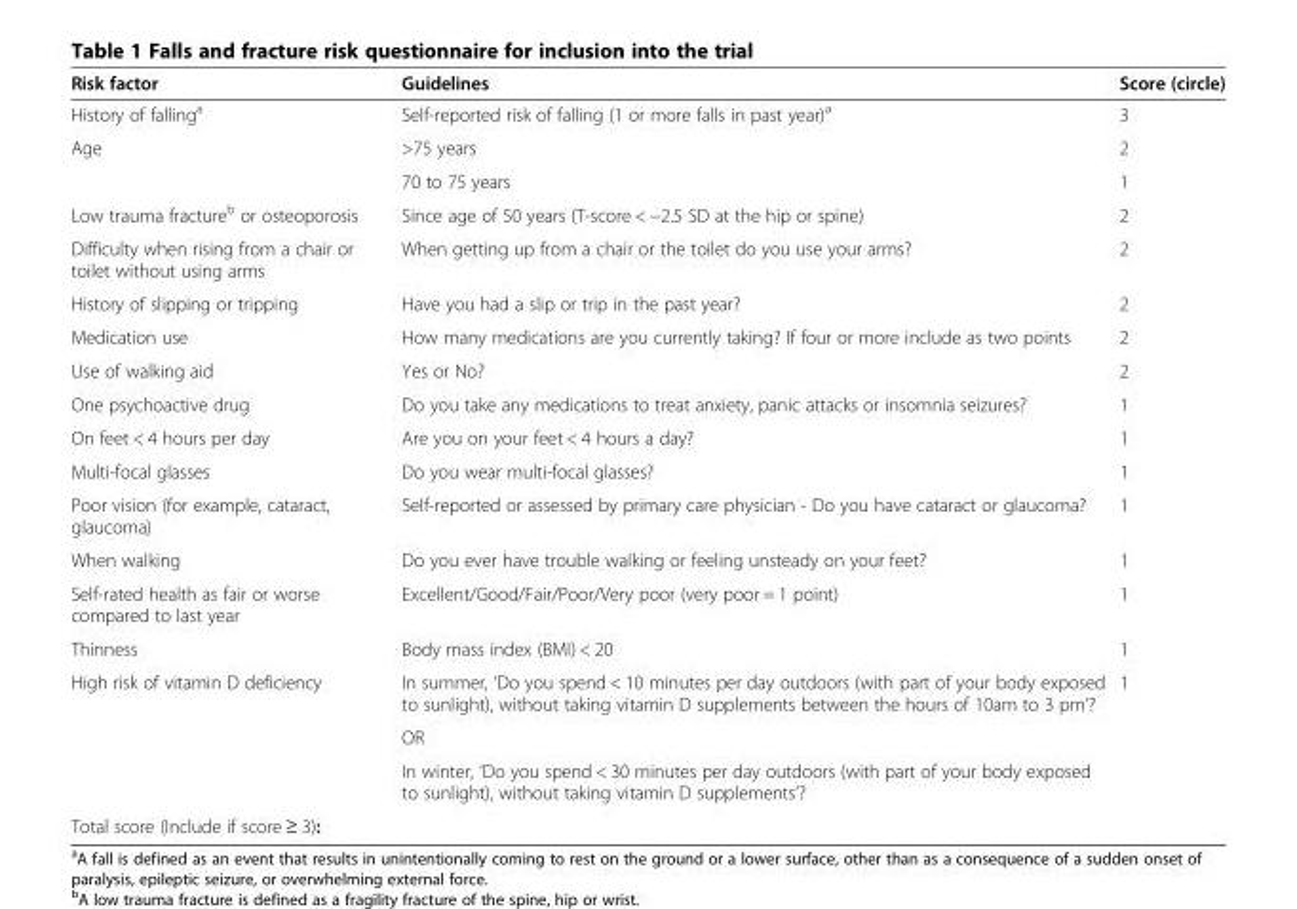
<table><thead><tr><td>Risk factor</td><td>Guidelines</td><td>Score (circle)</td></tr></thead><tbody><tr><td>History of falling<sup>a</sup></td><td>Self-reported risk of falling (1 or more falls in past year)<sup>a</sup></td><td>3</td></tr><tr><td rowspan="2">Age</td><td>&gt;75 years</td><td>2</td></tr><tr><td>70 to 75 years</td><td>1</td></tr><tr><td>Low trauma fracture<sup>b</sup> or osteoporosis</td><td>Since age of 50 years (T-score &lt; −2.5 SD at the hip or spine)</td><td>2</td></tr><tr><td>Difficulty when rising from a chair or toilet without using arms</td><td>When getting up from a chair or the toilet do you use your arms?</td><td>2</td></tr><tr><td>History of slipping or tripping</td><td>Have you had a slip or trip in the past year?</td><td>2</td></tr><tr><td>Medication use</td><td>How many medications are you currently taking? If four or more include as two points</td><td>2</td></tr><tr><td>Use of walking aid</td><td>Yes or No?</td><td>2</td></tr><tr><td>One psychoactive drug</td><td>Do you take any medications to treat anxiety, panic attacks or insomnia seizures?</td><td>1</td></tr><tr><td>On feet &lt; 4 hours per day</td><td>Are you on your feet &lt; 4 hours a day?</td><td>1</td></tr><tr><td>Multi-focal glasses</td><td>Do you wear multi-focal glasses?</td><td>1</td></tr><tr><td>Poor vision (for example, cataract, glaucoma)</td><td>Self-reported or assessed by primary care physician - Do you have cataract or glaucoma?</td><td>1</td></tr><tr><td>When walking</td><td>Do you ever have trouble walking or feeling unsteady on your feet?</td><td>1</td></tr><tr><td>Self-rated health as fair or worse compared to last year</td><td>Excellent/Good/Fair/Poor/Very poor (very poor = 1 point)</td><td>1</td></tr><tr><td>Thinness</td><td>Body mass index (BMI) &lt; 20</td><td>1</td></tr><tr><td rowspan="3">High risk of vitamin D deficiency</td><td>In summer, ‘Do you spend &lt; 10 minutes per day outdoors (with part of your body exposed to sunlight), without taking vitamin D supplements between the hours of 10am to 3 pm’?</td><td rowspan="3">1</td></tr><tr><td>OR</td></tr><tr><td>In winter, ‘Do you spend &lt; 30 minutes per day outdoors (with part of your body exposed to sunlight), without taking vitamin D supplements’?</td></tr><tr><td colspan="2">Total score (Include if score ≥ 3):</td><td></td></tr></tbody></table>